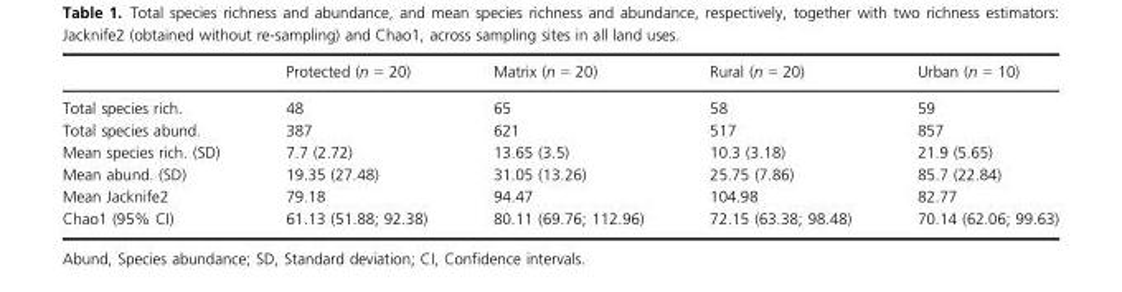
<table><thead><tr><td></td><td>Protected (n = 20)</td><td>Matrix (n = 20)</td><td>Rural (n = 20)</td><td>Urban (n = 10)</td></tr></thead><tbody><tr><td>Total species rich.</td><td>48</td><td>65</td><td>58</td><td>59</td></tr><tr><td>Total species abund.</td><td>387</td><td>621</td><td>517</td><td>857</td></tr><tr><td>Mean species rich. (SD)</td><td>7.7 (2.72)</td><td>13.65 (3.5)</td><td>10.3 (3.18)</td><td>21.9 (5.65)</td></tr><tr><td>Mean abund. (SD)</td><td>19.35 (27.48)</td><td>31.05 (13.26)</td><td>25.75 (7.86)</td><td>85.7 (22.84)</td></tr><tr><td>Mean Jacknife2</td><td>79.18</td><td>94.47</td><td>104.98</td><td>82.77</td></tr><tr><td>Chao1 (95% CI)</td><td>61.13 (51.88; 92.38)</td><td>80.11 (69.76; 112.96)</td><td>72.15 (63.38; 98.48)</td><td>70.14 (62.06; 99.63)</td></tr></tbody></table>